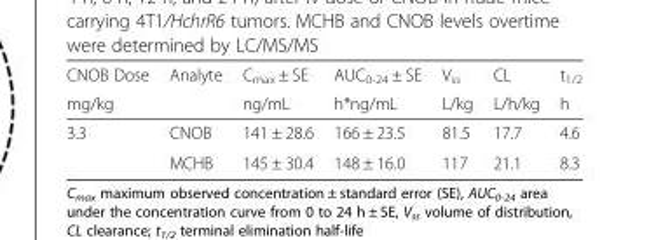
<table><thead><tr><td rowspan="2">CNOB Dose mg/kg</td><td rowspan="2">Analyte</td><td rowspan="2">C<sub>max</sub> ± SE ng/mL</td><td rowspan="2">AUC<sub>0-24</sub> ± SE h*ng/mL</td><td rowspan="2">V<sub>ss</sub> L/kg</td><td rowspan="2">CL L/h/kg</td><td rowspan="2">t<sub>1/2</sub> h</td></tr><tr></tr></thead><tbody><tr><td rowspan="2">3.3</td><td>CNOB</td><td>141 ± 28.6</td><td>166 ± 23.5</td><td>81.5</td><td>17.7</td><td>4.6</td></tr><tr><td>MCHB</td><td>145 ± 30.4</td><td>148 ± 16.0</td><td>117</td><td>21.1</td><td>8.3</td></tr></tbody></table>